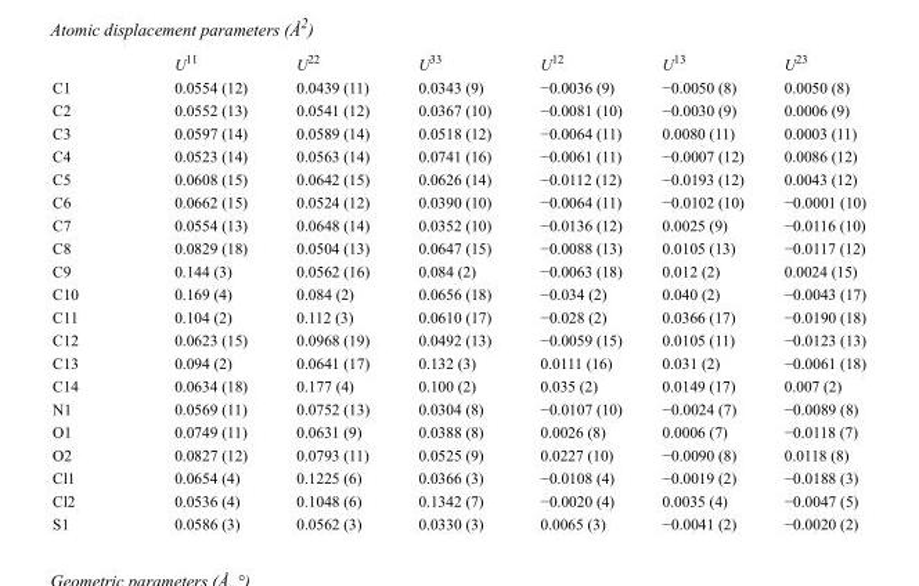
<table><thead><tr><td></td><td>U<sup>11</sup></td><td>U<sup>22</sup></td><td>U<sup>33</sup></td><td>U<sup>12</sup></td><td>U<sup>13</sup></td><td>U<sup>23</sup></td></tr></thead><tbody><tr><td>C1</td><td>0.0554 (12)</td><td>0.0439 (11)</td><td>0.0343 (9)</td><td>−0.0036 (9)</td><td>−0.0050 (8)</td><td>0.0050 (8)</td></tr><tr><td>C2</td><td>0.0552 (13)</td><td>0.0541 (12)</td><td>0.0367 (10)</td><td>−0.0081 (10)</td><td>−0.0030 (9)</td><td>0.0006 (9)</td></tr><tr><td>C3</td><td>0.0597 (14)</td><td>0.0589 (14)</td><td>0.0518 (12)</td><td>−0.0064 (11)</td><td>0.0080 (11)</td><td>0.0003 (11)</td></tr><tr><td>C4</td><td>0.0523 (14)</td><td>0.0563 (14)</td><td>0.0741 (16)</td><td>−0.0061 (11)</td><td>−0.0007 (12)</td><td>0.0086 (12)</td></tr><tr><td>C5</td><td>0.0608 (15)</td><td>0.0642 (15)</td><td>0.0626 (14)</td><td>−0.0112 (12)</td><td>−0.0193 (12)</td><td>0.0043 (12)</td></tr><tr><td>C6</td><td>0.0662 (15)</td><td>0.0524 (12)</td><td>0.0390 (10)</td><td>−0.0064 (11)</td><td>−0.0102 (10)</td><td>−0.0001 (10)</td></tr><tr><td>C7</td><td>0.0554 (13)</td><td>0.0648 (14)</td><td>0.0352 (10)</td><td>−0.0136 (12)</td><td>0.0025 (9)</td><td>−0.0116 (10)</td></tr><tr><td>C8</td><td>0.0829 (18)</td><td>0.0504 (13)</td><td>0.0647 (15)</td><td>−0.0088 (13)</td><td>0.0105 (13)</td><td>−0.0117 (12)</td></tr><tr><td>C9</td><td>0.144 (3)</td><td>0.0562 (16)</td><td>0.084 (2)</td><td>−0.0063 (18)</td><td>0.012 (2)</td><td>0.0024 (15)</td></tr><tr><td>C10</td><td>0.169 (4)</td><td>0.084 (2)</td><td>0.0656 (18)</td><td>−0.034 (2)</td><td>0.040 (2)</td><td>−0.0043 (17)</td></tr><tr><td>C11</td><td>0.104 (2)</td><td>0.112 (3)</td><td>0.0610 (17)</td><td>−0.028 (2)</td><td>0.0366 (17)</td><td>−0.0190 (18)</td></tr><tr><td>C12</td><td>0.0623 (15)</td><td>0.0968 (19)</td><td>0.0492 (13)</td><td>−0.0059 (15)</td><td>0.0105 (11)</td><td>−0.0123 (13)</td></tr><tr><td>C13</td><td>0.094 (2)</td><td>0.0641 (17)</td><td>0.132 (3)</td><td>0.0111 (16)</td><td>0.031 (2)</td><td>−0.0061 (18)</td></tr><tr><td>C14</td><td>0.0634 (18)</td><td>0.177 (4)</td><td>0.100 (2)</td><td>0.035 (2)</td><td>0.0149 (17)</td><td>0.007 (2)</td></tr><tr><td>N1</td><td>0.0569 (11)</td><td>0.0752 (13)</td><td>0.0304 (8)</td><td>−0.0107 (10)</td><td>−0.0024 (7)</td><td>−0.0089 (8)</td></tr><tr><td>O1</td><td>0.0749 (11)</td><td>0.0631 (9)</td><td>0.0388 (8)</td><td>0.0026 (8)</td><td>0.0006 (7)</td><td>−0.0118 (7)</td></tr><tr><td>O2</td><td>0.0827 (12)</td><td>0.0793 (11)</td><td>0.0525 (9)</td><td>0.0227 (10)</td><td>−0.0090 (8)</td><td>0.0118 (8)</td></tr><tr><td>Cl1</td><td>0.0654 (4)</td><td>0.1225 (6)</td><td>0.0366 (3)</td><td>−0.0108 (4)</td><td>−0.0019 (2)</td><td>−0.0188 (3)</td></tr><tr><td>Cl2</td><td>0.0536 (4)</td><td>0.1048 (6)</td><td>0.1342 (7)</td><td>−0.0020 (4)</td><td>0.0035 (4)</td><td>−0.0047 (5)</td></tr><tr><td>S1</td><td>0.0586 (3)</td><td>0.0562 (3)</td><td>0.0330 (3)</td><td>0.0065 (3)</td><td>−0.0041 (2)</td><td>−0.0020 (2)</td></tr></tbody></table>